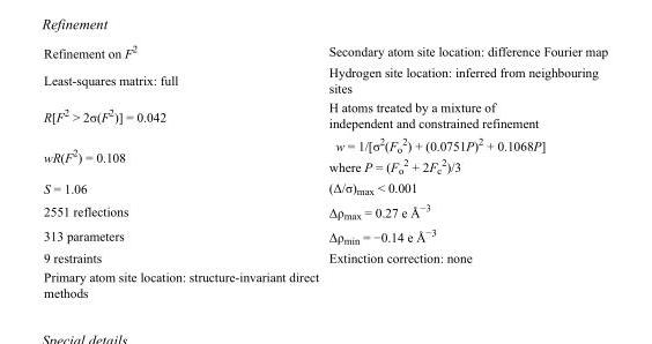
<table><tbody><tr><td>Refinement on F<sup>2</sup></td><td>Secondary atom site location: difference Fourier map</td></tr><tr><td>Least-squares matrix: full</td><td>Hydrogen site location: inferred from neighbouring sites</td></tr><tr><td>R[F<sup>2</sup> &gt; 2σ(F<sup>2</sup>)] = 0.042</td><td>H atoms treated by a mixture of independent and constrained refinement</td></tr><tr><td>wR(F<sup>2</sup>) = 0.108</td><td>w = 1/[σ<sup>2</sup>(F<sub>o</sub> <sup>2</sup>) + (0.0751P)<sup>2</sup> + 0.1068P] where P = (F<sub>o</sub> <sup>2</sup> + 2F<sub>c</sub> <sup>2</sup>)/3</td></tr><tr><td>S = 1.06</td><td>(Δ/σ)<sub>max</sub> &lt; 0.001</td></tr><tr><td>2551 reflections</td><td>Δρ<sub>max</sub> = 0.27 e Å<sup>−3</sup></td></tr><tr><td>313 parameters</td><td>Δρ<sub>min</sub> = −0.14 e Å<sup>−3</sup></td></tr><tr><td>9 restraints</td><td>Extinction correction: none</td></tr><tr><td>Primary atom site location: structure-invariant direct methods</td><td></td></tr></tbody></table>